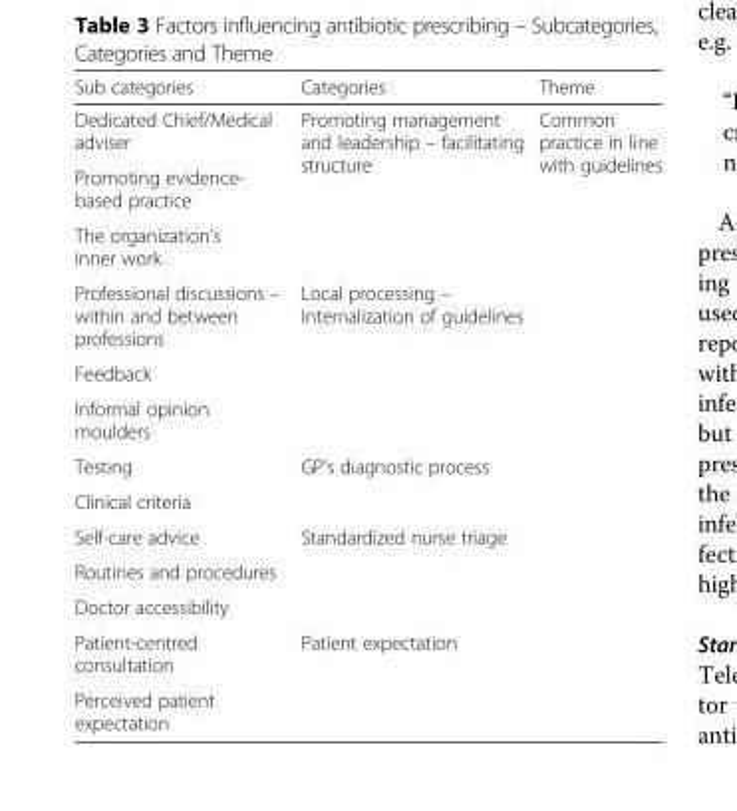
<table><thead><tr><td>Sub categories</td><td>Categories</td><td>Theme</td></tr></thead><tbody><tr><td>Dedicated Chief/Medical adviser</td><td rowspan="3">Promoting management and leadership – facilitating structure</td><td rowspan="13">Common practice in line with guidelines</td></tr><tr><td>Promoting evidence- based practice</td></tr><tr><td>The organization’s inner work</td></tr><tr><td>Professional discussions – within and between professions</td><td rowspan="3">Local processing – Internalization of guidelines</td></tr><tr><td>Feedback</td></tr><tr><td>Informal opinion moulders</td></tr><tr><td>Testing</td><td rowspan="2">GP’s diagnostic process</td></tr><tr><td>Clinical criteria</td></tr><tr><td>Self-care advice</td><td rowspan="3">Standardized nurse triage</td></tr><tr><td>Routines and procedures</td></tr><tr><td>Doctor accessibility</td></tr><tr><td>Patient-centred consultation</td><td rowspan="2">Patient expectation</td></tr><tr><td>Perceived patient expectation</td></tr></tbody></table>